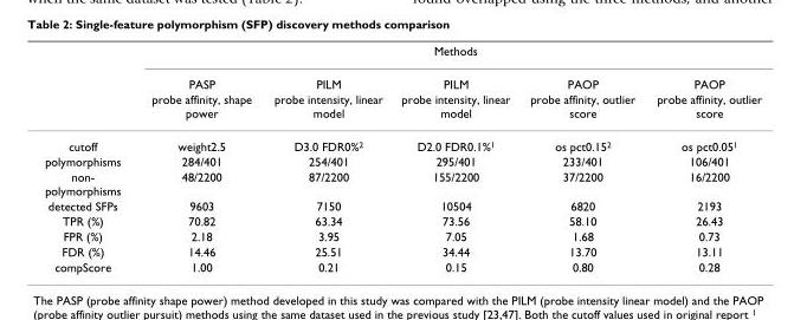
<table><thead><tr><td rowspan="3"></td><td colspan="5">Methods</td></tr><tr><td rowspan="2">PASP probe affinity, shape power</td><td rowspan="2">PILM probe intensity, linear model</td><td rowspan="2">PILM probe intensity, linear model</td><td rowspan="2">PAOP probe affinity, outlier score</td><td rowspan="2">PAOP probe affinity, outlier score</td></tr><tr></tr></thead><tbody><tr><td>cutoff</td><td>weight2.5</td><td>D3.0 FDR0%<sup>2</sup></td><td>D2.0 FDR0.1%<sup>1</sup></td><td>os pct0.15<sup>2</sup></td><td>os pct0.05<sup>1</sup></td></tr><tr><td>polymorphisms</td><td>284/401</td><td>254/401</td><td>295/401</td><td>233/401</td><td>106/401</td></tr><tr><td>non- polymorphisms</td><td>48/2200</td><td>87/2200</td><td>155/2200</td><td>37/2200</td><td>16/2200</td></tr><tr><td>detected SFPs</td><td>9603</td><td>7150</td><td>10504</td><td>6820</td><td>2193</td></tr><tr><td>TPR (%)</td><td>70.82</td><td>63.34</td><td>73.56</td><td>58.10</td><td>26.43</td></tr><tr><td>FPR (%)</td><td>2.18</td><td>3.95</td><td>7.05</td><td>1.68</td><td>0.73</td></tr><tr><td>FDR (%)</td><td>14.46</td><td>25.51</td><td>34.44</td><td>13.70</td><td>13.11</td></tr><tr><td>compScore</td><td>1.00</td><td>0.21</td><td>0.15</td><td>0.80</td><td>0.28</td></tr></tbody></table>